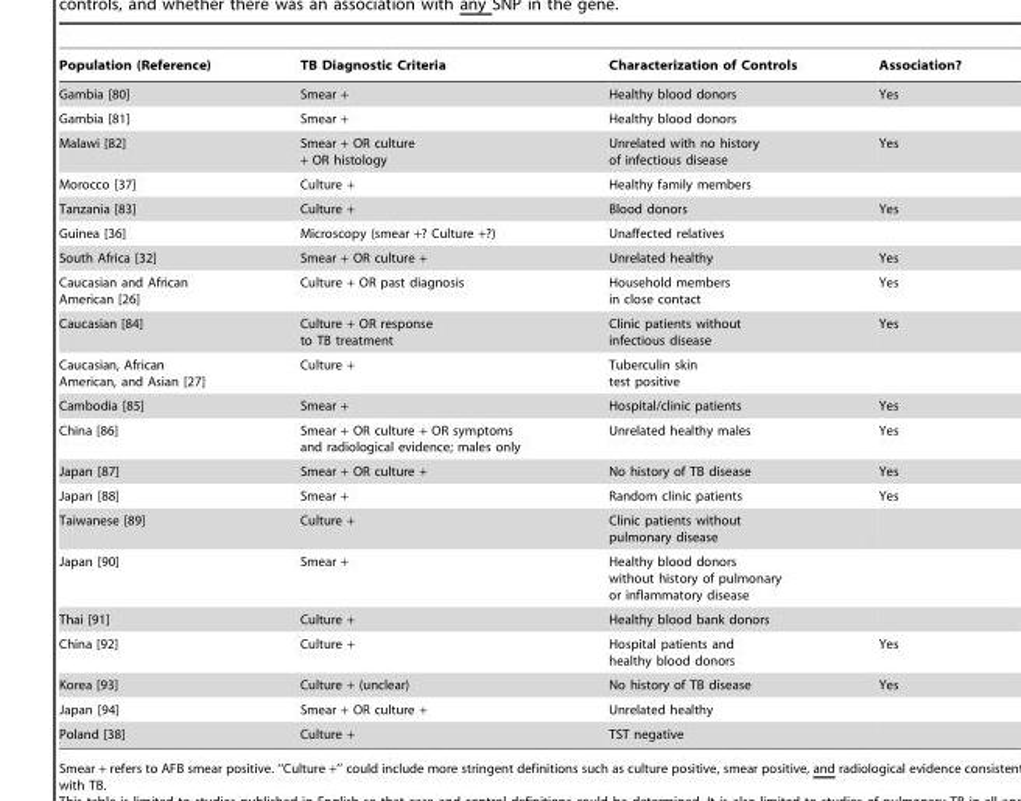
<table><thead><tr><td>Population (Reference)</td><td>TB Diagnostic Criteria</td><td>Characterization of Controls</td><td>Association?</td></tr></thead><tbody><tr><td>Gambia [80]</td><td>Smear +</td><td>Healthy blood donors</td><td>Yes</td></tr><tr><td>Gambia [81]</td><td>Smear +</td><td>Healthy blood donors</td><td></td></tr><tr><td>Malawi [82]</td><td>Smear + OR culture + OR histology</td><td>Unrelated with no history of infectious disease</td><td>Yes</td></tr><tr><td>Morocco [37]</td><td>Culture +</td><td>Healthy family members</td><td></td></tr><tr><td>Tanzania [83]</td><td>Culture +</td><td>Blood donors</td><td>Yes</td></tr><tr><td>Guinea [36]</td><td>Microscopy (smear +? Culture +?)</td><td>Unaffected relatives</td><td></td></tr><tr><td>South Africa [32]</td><td>Smear + OR culture +</td><td>Unrelated healthy</td><td>Yes</td></tr><tr><td>Caucasian and African American [26]</td><td>Culture + OR past diagnosis</td><td>Household members in close contact</td><td>Yes</td></tr><tr><td>Caucasian [84]</td><td>Culture + OR response to TB treatment</td><td>Clinic patients without infectious disease</td><td>Yes</td></tr><tr><td>Caucasian, African American, and Asian [27]</td><td>Culture +</td><td>Tuberculin skin test positive</td><td></td></tr><tr><td>Cambodia [85]</td><td>Smear +</td><td>Hospital/clinic patients</td><td>Yes</td></tr><tr><td>China [86]</td><td>Smear + OR culture + OR symptoms and radiological evidence; males only</td><td>Unrelated healthy males</td><td>Yes</td></tr><tr><td>Japan [87]</td><td>Smear + OR culture +</td><td>No history of TB disease</td><td>Yes</td></tr><tr><td>Japan [88]</td><td>Smear +</td><td>Random clinic patients</td><td>Yes</td></tr><tr><td>Taiwanese [89]</td><td>Culture +</td><td>Clinic patients without pulmonary disease</td><td></td></tr><tr><td>Japan [90]</td><td>Smear +</td><td>Healthy blood donors without history of pulmonary or inflammatory disease</td><td></td></tr><tr><td>Thai [91]</td><td>Culture +</td><td>Healthy blood bank donors</td><td></td></tr><tr><td>China [92]</td><td>Culture +</td><td>Hospital patients and healthy blood donors</td><td>Yes</td></tr><tr><td>Korea [93]</td><td>Culture + (unclear)</td><td>No history of TB disease</td><td>Yes</td></tr><tr><td>Japan [94]</td><td>Smear + OR culture +</td><td>Unrelated healthy</td><td></td></tr><tr><td>Poland [38]</td><td>Culture +</td><td>TST negative</td><td></td></tr></tbody></table>